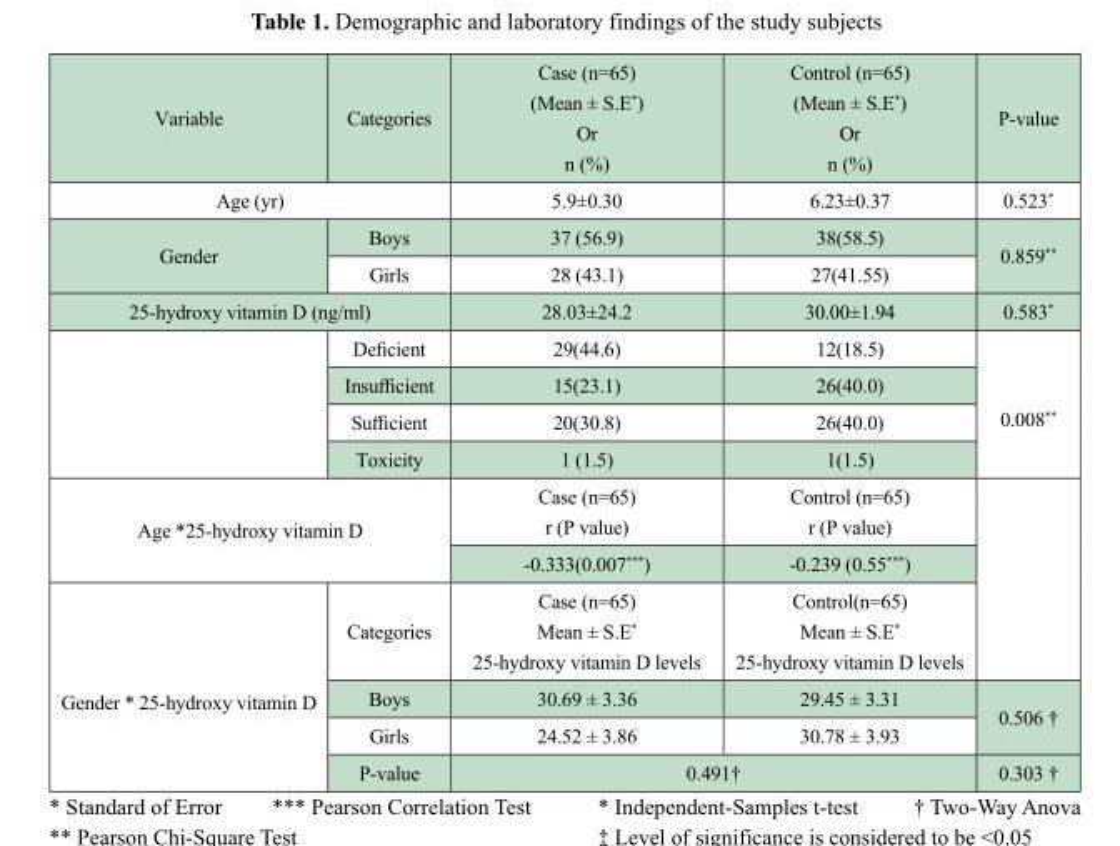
<table><thead><tr><td>Variable</td><td>Categories</td><td>Case (n=65) (Mean ± S.E*) Or n (%)</td><td>Control (n=65) (Mean ± S.E*) Or n (%)</td><td>P-value</td></tr></thead><tbody><tr><td colspan="2">Age (yr)</td><td>5.9±0.30</td><td>6.23±0.37</td><td>0.523*</td></tr><tr><td rowspan="2">Gender</td><td>Boys</td><td>37 (56.9)</td><td>38(58.5)</td><td rowspan="2">0.859**</td></tr><tr><td>Girls</td><td>28 (43.1)</td><td>27(41.55)</td></tr><tr><td colspan="2">25-hydroxy vitamin D (ng/ml)</td><td>28.03±24.2</td><td>30.00±1.94</td><td>0.583*</td></tr><tr><td rowspan="4"></td><td>Deficient</td><td>29(44.6)</td><td>12(18.5)</td><td rowspan="4">0.008**</td></tr><tr><td>Insufficient</td><td>15(23.1)</td><td>26(40.0)</td></tr><tr><td>Sufficient</td><td>20(30.8)</td><td>26(40.0)</td></tr><tr><td>Toxicity</td><td>1 (1.5)</td><td>1(1.5)</td></tr><tr><td rowspan="2" colspan="2">Age *25-hydroxy vitamin D</td><td>Case (n=65) r (P value)</td><td>Control (n=65) r (P value)</td><td rowspan="3"></td></tr><tr><td>-0.333(0.007***)</td><td>-0.239 (0.55***)</td></tr><tr><td rowspan="4">Gender * 25-hydroxy vitamin D</td><td>Categories</td><td>Case (n=65) Mean ± S.E* 25-hydroxy vitamin D levels</td><td>Control(n=65) Mean ± S.E* 25-hydroxy vitamin D levels</td></tr><tr><td>Boys</td><td>30.69 ± 3.36</td><td>29.45 ± 3.31</td><td rowspan="2">0.506 †</td></tr><tr><td>Girls</td><td>24.52 ± 3.86</td><td>30.78 ± 3.93</td></tr><tr><td>P-value</td><td colspan="2">0.491†</td><td>0.303 †</td></tr></tbody></table>